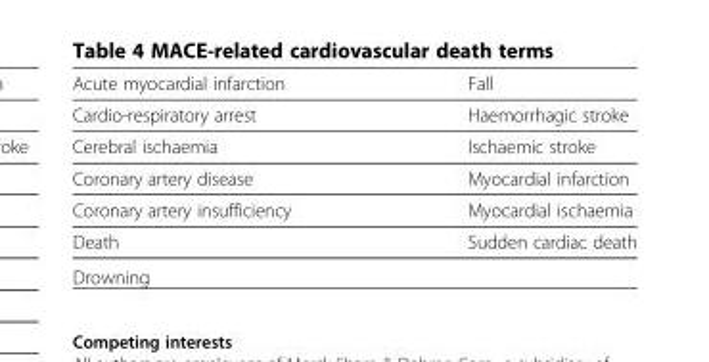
<table><thead><tr><td>Acute myocardial infarction</td><td>Fall</td></tr></thead><tbody><tr><td>Cardio-respiratory arrest</td><td>Haemorrhagic stroke</td></tr><tr><td>Cerebral ischaemia</td><td>Ischaemic stroke</td></tr><tr><td>Coronary artery disease</td><td>Myocardial infarction</td></tr><tr><td>Coronary artery insufficiency</td><td>Myocardial ischaemia</td></tr><tr><td>Death</td><td>Sudden cardiac death</td></tr><tr><td>Drowning</td><td></td></tr></tbody></table>